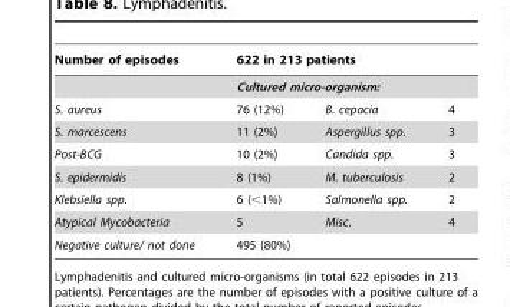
<table><thead><tr><td rowspan="3">Number of episodes S. aureus</td><td rowspan="2" colspan="3">622 in 213 patients Cultured micro-organism:</td></tr><tr></tr><tr><td>76 (12%)</td><td>B. cepacia</td><td>4</td></tr></thead><tbody><tr><td>S. marcescens</td><td>11 (2%)</td><td>Aspergillus spp.</td><td>3</td></tr><tr><td>Post-BCG</td><td>10 (2%)</td><td>Candida spp.</td><td>3</td></tr><tr><td>S. epidermidis</td><td>8 (1%)</td><td>M. tuberculosis</td><td>2</td></tr><tr><td>Klebsiella spp.</td><td>6 (&lt;1%)</td><td>Salmonella spp.</td><td>2</td></tr><tr><td>Atypical Mycobacteria</td><td>5</td><td>Misc.</td><td>4</td></tr><tr><td>Negative culture/ not done</td><td>495 (80%)</td><td></td><td></td></tr></tbody></table>